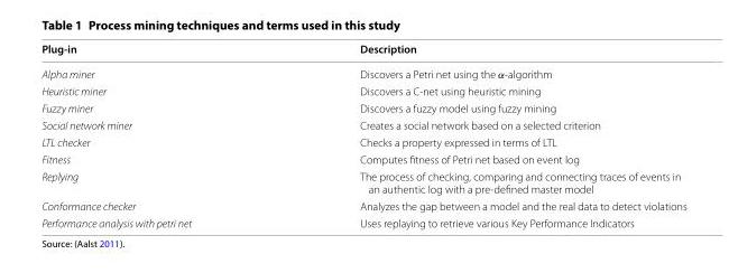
<table><thead><tr><td>Plug-in</td><td>Description</td></tr></thead><tbody><tr><td>Alpha miner</td><td>Discovers a Petri net using the α-algorithm</td></tr><tr><td>Heuristic miner</td><td>Discovers a C-net using heuristic mining</td></tr><tr><td>Fuzzy miner</td><td>Discovers a fuzzy model using fuzzy mining</td></tr><tr><td>Social network miner</td><td>Creates a social network based on a selected criterion</td></tr><tr><td>LTL checker</td><td>Checks a property expressed in terms of LTL</td></tr><tr><td>Fitness</td><td>Computes fitness of Petri net based on event log</td></tr><tr><td>Replying</td><td>The process of checking, comparing and connecting traces of events in an authentic log with a pre-defined master model</td></tr><tr><td>Conformance checker</td><td>Analyzes the gap between a model and the real data to detect violations</td></tr><tr><td>Performance analysis with petri net</td><td>Uses replaying to retrieve various Key Performance Indicators</td></tr></tbody></table>